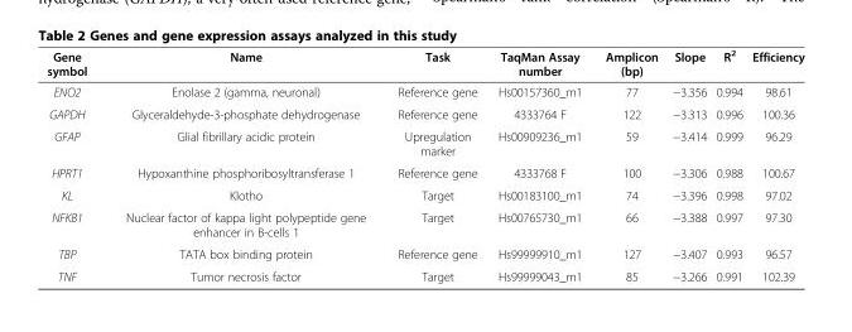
<table><thead><tr><td>Gene symbol</td><td>Name</td><td>Task</td><td>TaqMan Assay number</td><td>Amplicon (bp)</td><td>Slope</td><td>R<sup>2</sup></td><td>Efficiency</td></tr></thead><tbody><tr><td>ENO2</td><td>Enolase 2 (gamma, neuronal)</td><td>Reference gene</td><td>Hs00157360_m1</td><td>77</td><td>−3.356</td><td>0.994</td><td>98.61</td></tr><tr><td>GAPDH</td><td>Glyceraldehyde-3-phosphate dehydrogenase</td><td>Reference gene</td><td>4333764 F</td><td>122</td><td>−3.313</td><td>0.996</td><td>100.36</td></tr><tr><td>GFAP</td><td>Glial fibrillary acidic protein</td><td>Upregulation marker</td><td>Hs00909236_m1</td><td>59</td><td>−3.414</td><td>0.999</td><td>96.29</td></tr><tr><td>HPRT1</td><td>Hypoxanthine phosphoribosyltransferase 1</td><td>Reference gene</td><td>4333768 F</td><td>100</td><td>−3.306</td><td>0.988</td><td>100.67</td></tr><tr><td>KL</td><td>Klotho</td><td>Target</td><td>Hs00183100_m1</td><td>74</td><td>−3.396</td><td>0.998</td><td>97.02</td></tr><tr><td>NFKB1</td><td>Nuclear factor of kappa light polypeptide gene enhancer in B-cells 1</td><td>Target</td><td>Hs00765730_m1</td><td>66</td><td>−3.388</td><td>0.997</td><td>97.30</td></tr><tr><td>TBP</td><td>TATA box binding protein</td><td>Reference gene</td><td>Hs99999910_m1</td><td>127</td><td>−3.407</td><td>0.993</td><td>96.57</td></tr><tr><td>TNF</td><td>Tumor necrosis factor</td><td>Target</td><td>Hs99999043_m1</td><td>85</td><td>−3.266</td><td>0.991</td><td>102.39</td></tr></tbody></table>